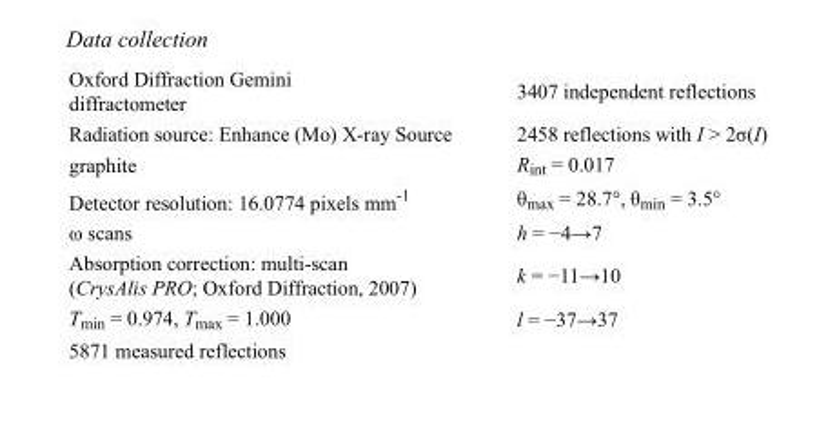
<table><tbody><tr><td>Oxford Diffraction Gemini diffractometer</td><td>3407 independent reflections</td></tr><tr><td>Radiation source: Enhance (Mo) X-ray Source</td><td>2458 reflections with I &gt; 2σ(I)</td></tr><tr><td>graphite</td><td>R<sub>int</sub> = 0.017</td></tr><tr><td>Detector resolution: 16.0774 pixels mm<sup>-1</sup></td><td>θ<sub>max</sub> = 28.7°, θ<sub>min</sub> = 3.5°</td></tr><tr><td>ω scans</td><td>h = −4→7</td></tr><tr><td>Absorption correction: multi-scan (CrysAlis PRO; Oxford Diffraction, 2007)</td><td>k = −11→10</td></tr><tr><td>T<sub>min</sub> = 0.974, T<sub>max</sub> = 1.000</td><td>l = −37→37</td></tr><tr><td>5871 measured reflections</td><td></td></tr></tbody></table>